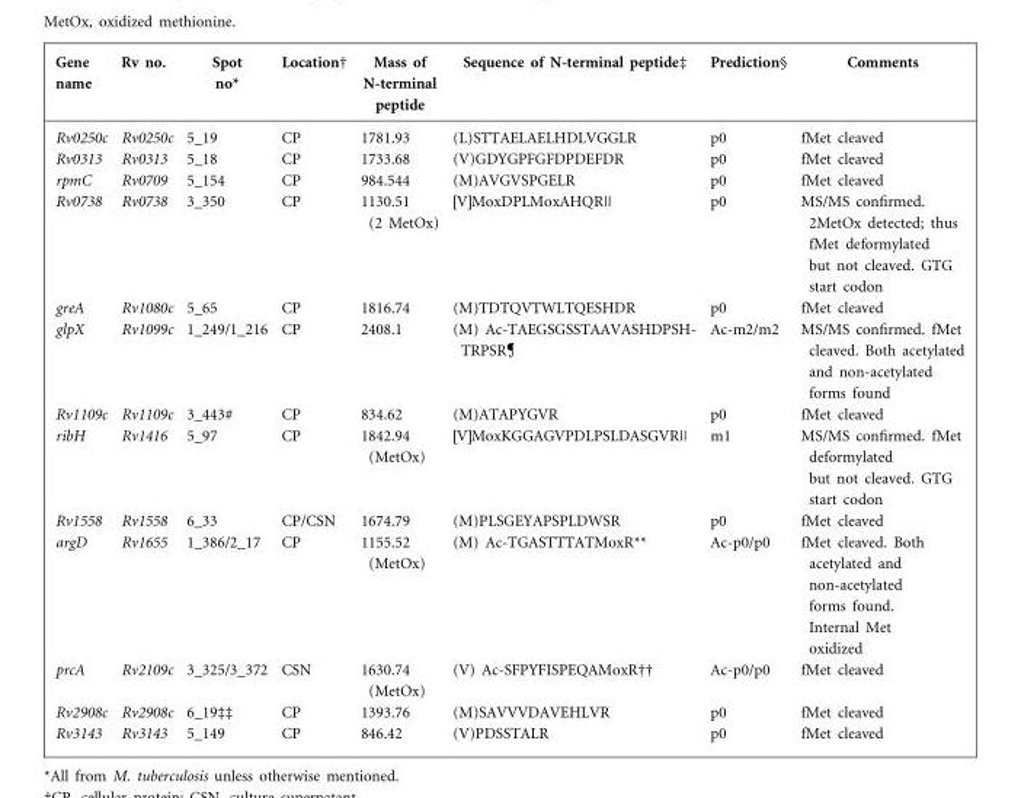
<table><thead><tr><td>Gene name</td><td>Rv no.</td><td>Spot no*</td><td>Location†</td><td>Mass of N-terminal peptide</td><td>Sequence of N-terminal peptide‡</td><td>Prediction§</td><td>Comments</td></tr></thead><tbody><tr><td>Rv0250c</td><td>Rv0250c</td><td>5_19</td><td>CP</td><td>1781.93</td><td>(L)STTAELAELHDLVGGLR</td><td>p0</td><td>fMet cleaved</td></tr><tr><td>Rv0313</td><td>Rv0313</td><td>5_18</td><td>CP</td><td>1733.68</td><td>(V)GDYGPFGFDPDEFDR</td><td>p0</td><td>fMet cleaved</td></tr><tr><td>rpmC</td><td>Rv0709</td><td>5_154</td><td>CP</td><td>984.544</td><td>(M)AVGVSPGELR</td><td>p0</td><td>fMet cleaved</td></tr><tr><td>Rv0738</td><td>Rv0738</td><td>3_350</td><td>CP</td><td>1130.51 (2 MetOx)</td><td>[V]MoxDPLMoxAHQR||</td><td>p0</td><td>MS/MS confirmed. 2MetOx detected; thus fMet deformylated but not cleaved. GTG start codon</td></tr><tr><td>greA</td><td>Rv1080c</td><td>5_65</td><td>CP</td><td>1816.74</td><td>(M)TDTQVTWLTQESHDR</td><td>p0</td><td>fMet cleaved</td></tr><tr><td>glpX</td><td>Rv1099c</td><td>1_249/1_216</td><td>CP</td><td>2408.1</td><td>(M) Ac-TAEGSGSSTAAVASHDPSH- TRPSR</td><td>Ac-m2/m2</td><td>MS/MS confirmed. fMet cleaved. Both acetylated and non-acetylated forms found</td></tr><tr><td>Rv1109c</td><td>Rv1109c</td><td>3_443#</td><td>CP</td><td>834.62</td><td>(M)ATAPYGVR</td><td>p0</td><td>fMet cleaved</td></tr><tr><td>ribH</td><td>Rv1416</td><td>5_97</td><td>CP</td><td>1842.94 (MetOx)</td><td>[V]MoxKGGAGVPDLPSLDASGVR||</td><td>m1</td><td>MS/MS confirmed. fMet deformylated but not cleaved. GTG start codon</td></tr><tr><td>Rv1558</td><td>Rv1558</td><td>6_33</td><td>CP/CSN</td><td>1674.79</td><td>(M)PLSGEYAPSPLDWSR</td><td>p0</td><td>fMet cleaved</td></tr><tr><td>argD</td><td>Rv1655</td><td>1_386/2_17</td><td>CP</td><td>1155.52 (MetOx)</td><td>(M) Ac-TGASTTTATMoxR**</td><td>Ac-p0/p0</td><td>fMet cleaved. Both acetylated and non-acetylated forms found. Internal Met oxidized</td></tr><tr><td>prcA</td><td>Rv2109c</td><td>3_325/3_372</td><td>CSN</td><td>1630.74 (MetOx)</td><td>(V) Ac-SFPYFISPEQAMoxR††</td><td>Ac-p0/p0</td><td>fMet cleaved</td></tr><tr><td>Rv2908c</td><td>Rv2908c</td><td>6_19‡‡</td><td>CP</td><td>1393.76</td><td>(M)SAVVVDAVEHLVR</td><td>p0</td><td>fMet cleaved</td></tr><tr><td>Rv3143</td><td>Rv3143</td><td>5_149</td><td>CP</td><td>846.42</td><td>(V)PDSSTALR</td><td>p0</td><td>fMet cleaved</td></tr></tbody></table>